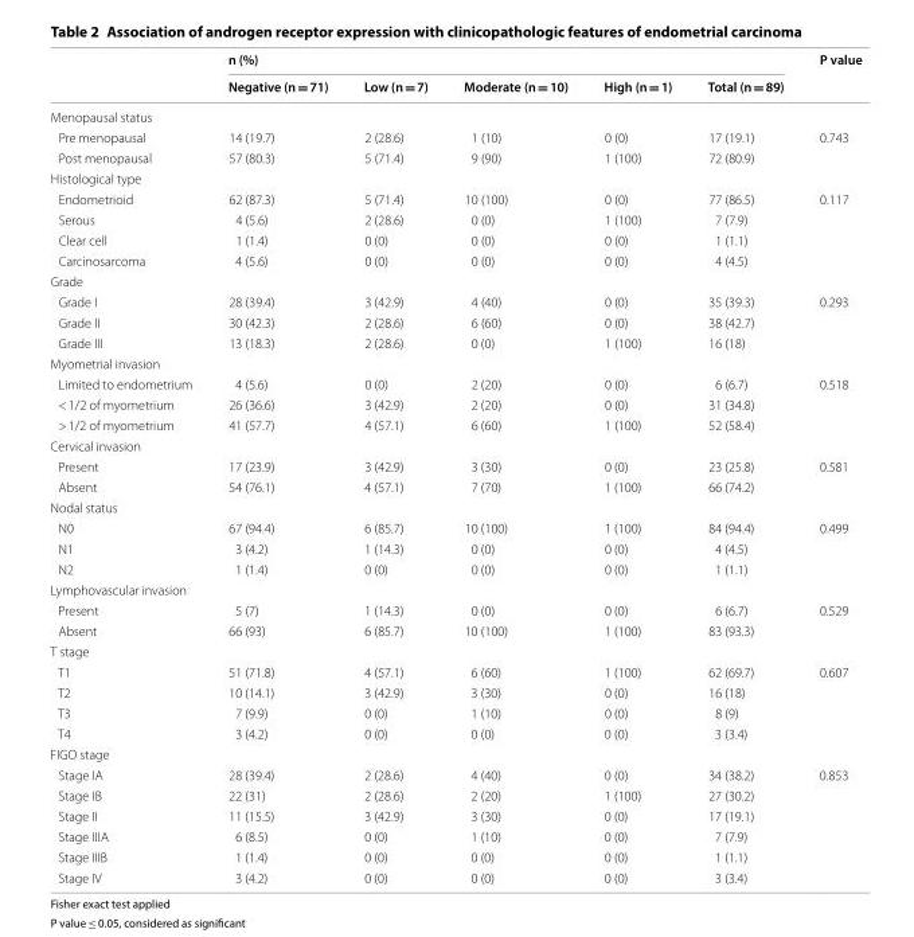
<table><thead><tr><td rowspan="2"></td><td colspan="5">n (%)</td><td rowspan="2">P value</td></tr><tr><td>Negative (n = 71)</td><td>Low (n = 7)</td><td>Moderate (n = 10)</td><td>High (n = 1)</td><td>Total (n = 89)</td></tr></thead><tbody><tr><td colspan="7">Menopausal status</td></tr><tr><td>Pre menopausal</td><td>14 (19.7)</td><td>2 (28.6)</td><td>1 (10)</td><td>0 (0)</td><td>17 (19.1)</td><td rowspan="2">0.743</td></tr><tr><td>Post menopausal</td><td>57 (80.3)</td><td>5 (71.4)</td><td>9 (90)</td><td>1 (100)</td><td>72 (80.9)</td></tr><tr><td colspan="7">Histological type</td></tr><tr><td>Endometrioid</td><td>62 (87.3)</td><td>5 (71.4)</td><td>10 (100)</td><td>0 (0)</td><td>77 (86.5)</td><td rowspan="4">0.117</td></tr><tr><td>Serous</td><td>4 (5.6)</td><td>2 (28.6)</td><td>0 (0)</td><td>1 (100)</td><td>7 (7.9)</td></tr><tr><td>Clear cell</td><td>1 (1.4)</td><td>0 (0)</td><td>0 (0)</td><td>0 (0)</td><td>1 (1.1)</td></tr><tr><td>Carcinosarcoma</td><td>4 (5.6)</td><td>0 (0)</td><td>0 (0)</td><td>0 (0)</td><td>4 (4.5)</td></tr><tr><td colspan="7">Grade</td></tr><tr><td>Grade I</td><td>28 (39.4)</td><td>3 (42.9)</td><td>4 (40)</td><td>0 (0)</td><td>35 (39.3)</td><td rowspan="3">0.293</td></tr><tr><td>Grade II</td><td>30 (42.3)</td><td>2 (28.6)</td><td>6 (60)</td><td>0 (0)</td><td>38 (42.7)</td></tr><tr><td>Grade III</td><td>13 (18.3)</td><td>2 (28.6)</td><td>0 (0)</td><td>1 (100)</td><td>16 (18)</td></tr><tr><td colspan="7">Myometrial invasion</td></tr><tr><td>Limited to endometrium</td><td>4 (5.6)</td><td>0 (0)</td><td>2 (20)</td><td>0 (0)</td><td>6 (6.7)</td><td rowspan="3">0.518</td></tr><tr><td>&lt; 1/2 of myometrium</td><td>26 (36.6)</td><td>3 (42.9)</td><td>2 (20)</td><td>0 (0)</td><td>31 (34.8)</td></tr><tr><td>&gt; 1/2 of myometrium</td><td>41 (57.7)</td><td>4 (57.1)</td><td>6 (60)</td><td>1 (100)</td><td>52 (58.4)</td></tr><tr><td colspan="7">Cervical invasion</td></tr><tr><td>Present</td><td>17 (23.9)</td><td>3 (42.9)</td><td>3 (30)</td><td>0 (0)</td><td>23 (25.8)</td><td rowspan="2">0.581</td></tr><tr><td>Absent</td><td>54 (76.1)</td><td>4 (57.1)</td><td>7 (70)</td><td>1 (100)</td><td>66 (74.2)</td></tr><tr><td colspan="7">Nodal status</td></tr><tr><td>N0</td><td>67 (94.4)</td><td>6 (85.7)</td><td>10 (100)</td><td>1 (100)</td><td>84 (94.4)</td><td rowspan="3">0.499</td></tr><tr><td>N1</td><td>3 (4.2)</td><td>1 (14.3)</td><td>0 (0)</td><td>0 (0)</td><td>4 (4.5)</td></tr><tr><td>N2</td><td>1 (1.4)</td><td>0 (0)</td><td>0 (0)</td><td>0 (0)</td><td>1 (1.1)</td></tr><tr><td colspan="7">Lymphovascular invasion</td></tr><tr><td>Present</td><td>5 (7)</td><td>1 (14.3)</td><td>0 (0)</td><td>0 (0)</td><td>6 (6.7)</td><td rowspan="2">0.529</td></tr><tr><td>Absent</td><td>66 (93)</td><td>6 (85.7)</td><td>10 (100)</td><td>1 (100)</td><td>83 (93.3)</td></tr><tr><td colspan="7">T stage</td></tr><tr><td>T1</td><td>51 (71.8)</td><td>4 (57.1)</td><td>6 (60)</td><td>1 (100)</td><td>62 (69.7)</td><td rowspan="4">0.607</td></tr><tr><td>T2</td><td>10 (14.1)</td><td>3 (42.9)</td><td>3 (30)</td><td>0 (0)</td><td>16 (18)</td></tr><tr><td>T3</td><td>7 (9.9)</td><td>0 (0)</td><td>1 (10)</td><td>0 (0)</td><td>8 (9)</td></tr><tr><td>T4</td><td>3 (4.2)</td><td>0 (0)</td><td>0 (0)</td><td>0 (0)</td><td>3 (3.4)</td></tr><tr><td colspan="7">FIGO stage</td></tr><tr><td>Stage IA</td><td>28 (39.4)</td><td>2 (28.6)</td><td>4 (40)</td><td>0 (0)</td><td>34 (38.2)</td><td rowspan="6">0.853</td></tr><tr><td>Stage IB</td><td>22 (31)</td><td>2 (28.6)</td><td>2 (20)</td><td>1 (100)</td><td>27 (30.2)</td></tr><tr><td>Stage II</td><td>11 (15.5)</td><td>3 (42.9)</td><td>3 (30)</td><td>0 (0)</td><td>17 (19.1)</td></tr><tr><td>Stage IIIA</td><td>6 (8.5)</td><td>0 (0)</td><td>1 (10)</td><td>0 (0)</td><td>7 (7.9)</td></tr><tr><td>Stage IIIB</td><td>1 (1.4)</td><td>0 (0)</td><td>0 (0)</td><td>0 (0)</td><td>1 (1.1)</td></tr><tr><td>Stage IV</td><td>3 (4.2)</td><td>0 (0)</td><td>0 (0)</td><td>0 (0)</td><td>3 (3.4)</td></tr></tbody></table>